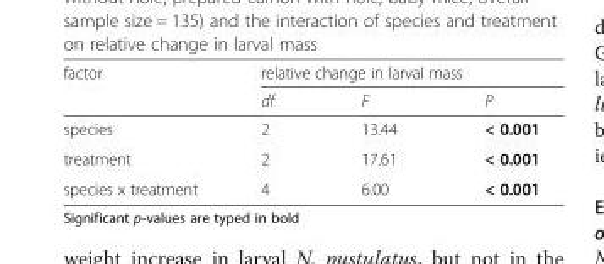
<table><thead><tr><td rowspan="2">factor</td><td colspan="3">relative change in larval mass</td></tr><tr><td>df</td><td>F</td><td>P</td></tr></thead><tbody><tr><td>species</td><td>2</td><td>13.44</td><td>&lt; 0.001</td></tr><tr><td>treatment</td><td>2</td><td>17.61</td><td>&lt; 0.001</td></tr><tr><td>species x treatment</td><td>4</td><td>6.00</td><td>&lt; 0.001</td></tr></tbody></table>